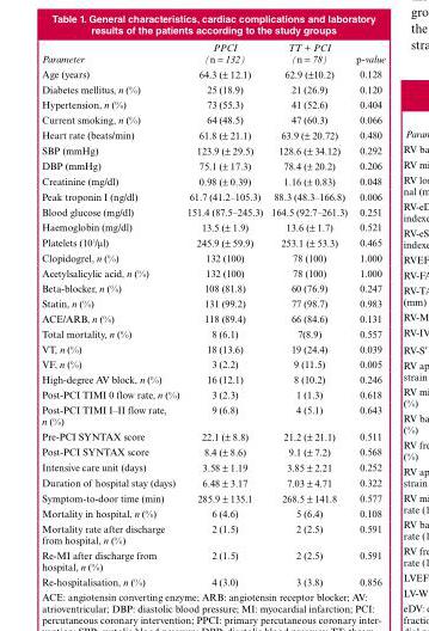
<table><thead><tr><td>Parameter</td><td>PPCI (n = 132)</td><td>TT + PCI (n = 78)</td><td>p-value</td></tr></thead><tbody><tr><td>Age (years)</td><td>64.3 (± 12.1)</td><td>62.9 (±10.2)</td><td>0.128</td></tr><tr><td>Diabetes mellitus, n (%)</td><td>25 (18.9)</td><td>21 (26.9)</td><td>0.120</td></tr><tr><td>Hypertension, n (%)</td><td>73 (55.3)</td><td>41 (52.6)</td><td>0.404</td></tr><tr><td>Current smoking, n (%)</td><td>64 (48.5)</td><td>47 (60.3)</td><td>0.066</td></tr><tr><td>Heart rate (beats/min)</td><td>61.8 (± 21.1)</td><td>63.9 (± 20.72)</td><td>0.480</td></tr><tr><td>SBP (mmHg)</td><td>123.9 (± 29.5)</td><td>128.6 (± 34.12)</td><td>0.292</td></tr><tr><td>DBP (mmHg)</td><td>75.1 (± 17.3)</td><td>78.4 (± 20.2)</td><td>0.206</td></tr><tr><td>Creatinine (mg/dl)</td><td>0.98 (± 0.39)</td><td>1.16 (± 0.83)</td><td>0.048</td></tr><tr><td>Peak troponin I (ng/dl)</td><td>61.7 (41.2–105.3)</td><td>88.3 (48.3–166.8)</td><td>0.006</td></tr><tr><td>Blood glucose (mg/dl)</td><td>151.4 (87.5–245.3)</td><td>164.5 (92.7–261.3)</td><td>0.251</td></tr><tr><td>Haemoglobin (mg/dl)</td><td>13.5 (± 1.9)</td><td>13.6 (± 1.7)</td><td>0.521</td></tr><tr><td>Platelets (103/μl)</td><td>245.9 (± 59.9)</td><td>253.1 (± 53.3)</td><td>0.465</td></tr><tr><td>Clopidogrel, n (%)</td><td>132 (100)</td><td>78 (100)</td><td>1.000</td></tr><tr><td>Acetylsalicylic acid, n (%)</td><td>132 (100)</td><td>78 (100)</td><td>1.000</td></tr><tr><td>Beta-blocker, n (%)</td><td>108 (81.8)</td><td>60 (76.9)</td><td>0.247</td></tr><tr><td>Statin, n (%)</td><td>131 (99.2)</td><td>77 (98.7)</td><td>0.983</td></tr><tr><td>ACE/ARB, n (%)</td><td>118 (89.4)</td><td>66 (84.6)</td><td>0.131</td></tr><tr><td>Total mortality, n (%)</td><td>8 (6.1)</td><td>7(8.9)</td><td>0.557</td></tr><tr><td>VT, n (%)</td><td>18 (13.6)</td><td>19 (24.4)</td><td>0.039</td></tr><tr><td>VF, n (%)</td><td>3 (2.2)</td><td>9 (11.5)</td><td>0.005</td></tr><tr><td>High-degree AV block, n (%)</td><td>16 (12.1)</td><td>8 (10.2)</td><td>0.246</td></tr><tr><td>Post-PCI TIMI 0 flow rate, n (%)</td><td>3 (2.3)</td><td>1 (1.3)</td><td>0.618</td></tr><tr><td>Post-PCI TIMI I–II flow rate, n (%)</td><td>9 (6.8)</td><td>4 (5.1)</td><td>0.643</td></tr><tr><td>Pre-PCI SYNTAX score</td><td>22.1 (± 8.8)</td><td>21.2 (± 21.1)</td><td>0.511</td></tr><tr><td>Post-PCI SYNTAX score</td><td>8.4 (± 8.6)</td><td>9.1 (± 7.2)</td><td>0.568</td></tr><tr><td>Intensive care unit (days)</td><td>3.58 ± 1.19</td><td>3.85 ± 2.21</td><td>0.252</td></tr><tr><td>Duration of hospital stay (days)</td><td>6.48 ± 3.17</td><td>7.03 ± 4.71</td><td>0.322</td></tr><tr><td>Symptom-to-door time (min)</td><td>285.9 ± 135.1</td><td>268.5 ± 141.8</td><td>0.577</td></tr><tr><td>Mortality in hospital, n (%)</td><td>6 (4.6)</td><td>5 (6.4)</td><td>0.108</td></tr><tr><td>Mortality rate after discharge from hospital, n (%)</td><td>2 (1.5)</td><td>2 (2.5)</td><td>0.591</td></tr><tr><td>Re-MI after discharge from hospital, n (%)</td><td>2 (1.5)</td><td>2 (2.5)</td><td>0.591</td></tr><tr><td>Re-hospitalisation, n (%)</td><td>4 (3.0)</td><td>3 (3.8)</td><td>0.856</td></tr></tbody></table>